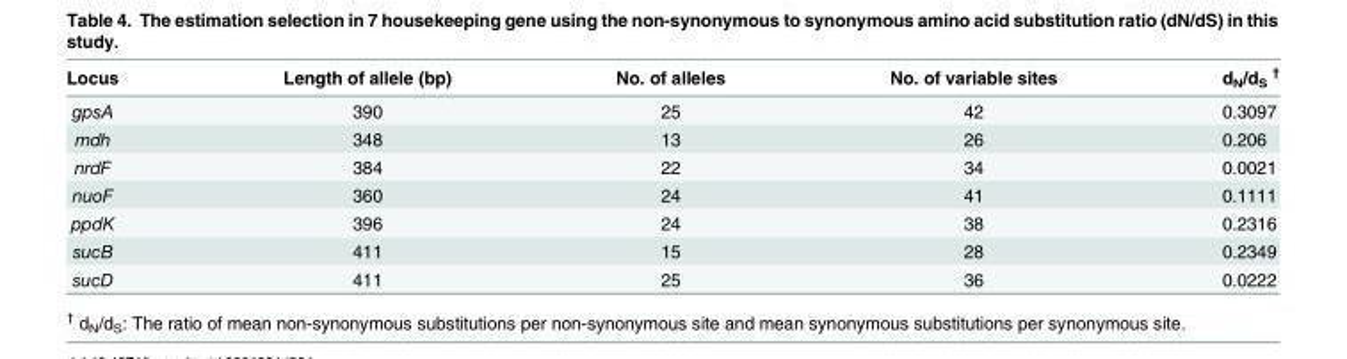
<table><thead><tr><td>Locus</td><td>Length of allele (bp)</td><td>No. of alleles</td><td>No. of variable sites</td><td>d<sub>N</sub>/d<sub>S</sub> <sup>†</sup></td></tr></thead><tbody><tr><td>gpsA</td><td>390</td><td>25</td><td>42</td><td>0.3097</td></tr><tr><td>mdh</td><td>348</td><td>13</td><td>26</td><td>0.206</td></tr><tr><td>nrdF</td><td>384</td><td>22</td><td>34</td><td>0.0021</td></tr><tr><td>nuoF</td><td>360</td><td>24</td><td>41</td><td>0.1111</td></tr><tr><td>ppdK</td><td>396</td><td>24</td><td>38</td><td>0.2316</td></tr><tr><td>sucB</td><td>411</td><td>15</td><td>28</td><td>0.2349</td></tr><tr><td>sucD</td><td>411</td><td>25</td><td>36</td><td>0.0222</td></tr></tbody></table>